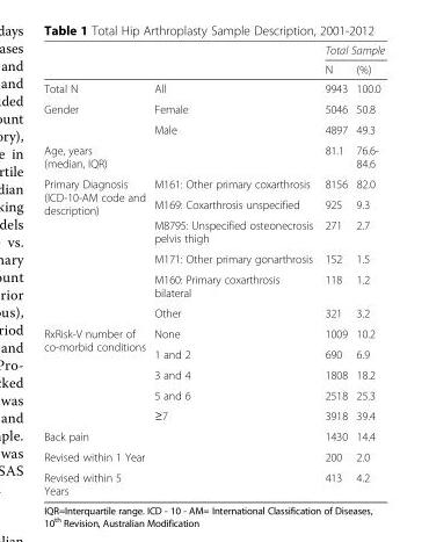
<table><thead><tr><td rowspan="2"></td><td rowspan="2"></td><td colspan="2">Total Sample</td></tr><tr><td>N</td><td>(%)</td></tr></thead><tbody><tr><td>Total N</td><td>All</td><td>9943</td><td>100.0</td></tr><tr><td rowspan="2">Gender</td><td>Female</td><td>5046</td><td>50.8</td></tr><tr><td>Male</td><td>4897</td><td>49.3</td></tr><tr><td>Age, years (median, IQR)</td><td></td><td>81.1</td><td>76.6- 84.6</td></tr><tr><td rowspan="6">Primary Diagnosis (ICD-10-AM code and description)</td><td>M161: Other primary coxarthrosis</td><td>8156</td><td>82.0</td></tr><tr><td>M169: Coxarthrosis unspecified</td><td>925</td><td>9.3</td></tr><tr><td>M8795: Unspecified osteonecrosis pelvis thigh</td><td>271</td><td>2.7</td></tr><tr><td>M171: Other primary gonarthrosis</td><td>152</td><td>1.5</td></tr><tr><td>M160: Primary coxarthrosis bilateral</td><td>118</td><td>1.2</td></tr><tr><td>Other</td><td>321</td><td>3.2</td></tr><tr><td rowspan="5">RxRisk-V number of co-morbid conditions</td><td>None</td><td>1009</td><td>10.2</td></tr><tr><td>1 and 2</td><td>690</td><td>6.9</td></tr><tr><td>3 and 4</td><td>1808</td><td>18.2</td></tr><tr><td>5 and 6</td><td>2518</td><td>25.3</td></tr><tr><td>≥7</td><td>3918</td><td>39.4</td></tr><tr><td>Back pain</td><td></td><td>1430</td><td>14.4</td></tr><tr><td>Revised within 1 Year</td><td></td><td>200</td><td>2.0</td></tr><tr><td>Revised within 5 Years</td><td></td><td>413</td><td>4.2</td></tr></tbody></table>